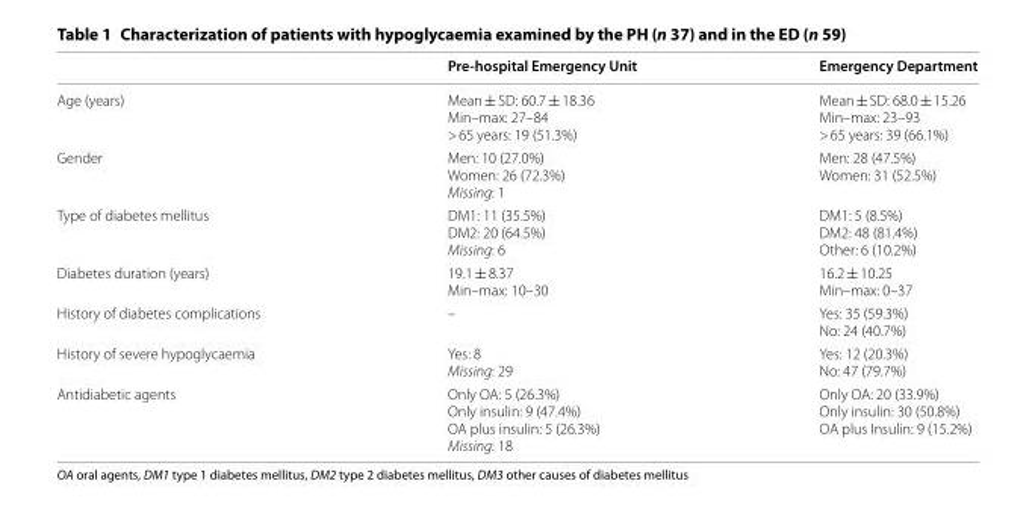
<table><thead><tr><td></td><td>Pre-hospital Emergency Unit</td><td>Emergency Department</td></tr></thead><tbody><tr><td>Age (years)</td><td>Mean ± SD: 60.7 ± 18.36 Min–max: 27–84 &gt; 65 years: 19 (51.3%)</td><td>Mean ± SD: 68.0 ± 15.26 Min–max: 23–93 &gt; 65 years: 39 (66.1%)</td></tr><tr><td>Gender</td><td>Men: 10 (27.0%) Women: 26 (72.3%) Missing: 1</td><td>Men: 28 (47.5%) Women: 31 (52.5%)</td></tr><tr><td>Type of diabetes mellitus</td><td>DM1: 11 (35.5%) DM2: 20 (64.5%) Missing: 6</td><td>DM1: 5 (8.5%) DM2: 48 (81.4%) Other: 6 (10.2%)</td></tr><tr><td>Diabetes duration (years)</td><td>19.1 ± 8.37 Min–max: 10–30</td><td>16.2 ± 10.25 Min–max: 0–37</td></tr><tr><td>History of diabetes complications</td><td>–</td><td>Yes: 35 (59.3%) No: 24 (40.7%)</td></tr><tr><td>History of severe hypoglycaemia</td><td>Yes: 8 Missing: 29</td><td>Yes: 12 (20.3%) No: 47 (79.7%)</td></tr><tr><td>Antidiabetic agents</td><td>Only OA: 5 (26.3%) Only insulin: 9 (47.4%) OA plus insulin: 5 (26.3%) Missing: 18</td><td>Only OA: 20 (33.9%) Only insulin: 30 (50.8%) OA plus Insulin: 9 (15.2%)</td></tr></tbody></table>